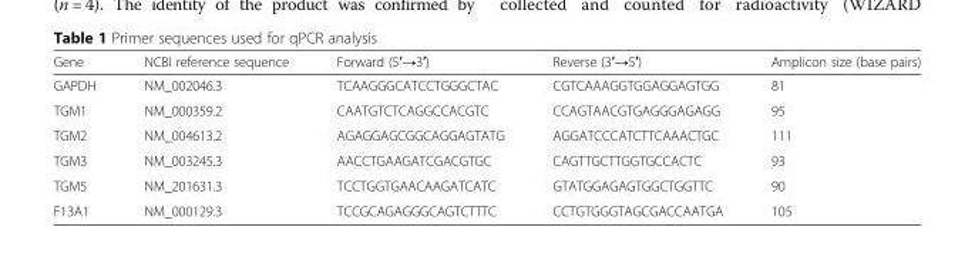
<table><thead><tr><td>Gene</td><td>NCBI reference sequence</td><td>Forward (5′→3′)</td><td>Reverse (3′→5′)</td><td>Amplicon size (base pairs)</td></tr></thead><tbody><tr><td>GAPDH</td><td>NM_002046.3</td><td>TCAAGGGCATCCTGGGCTAC</td><td>CGTCAAAGGTGGAGGAGTGG</td><td>81</td></tr><tr><td>TGM1</td><td>NM_000359.2</td><td>CAATGTCTCAGGCCACGTC</td><td>CCAGTAACGTGAGGGAGAGG</td><td>95</td></tr><tr><td>TGM2</td><td>NM_004613.2</td><td>AGAGGAGCGGCAGGAGTATG</td><td>AGGATCCCATCTTCAAACTGC</td><td>111</td></tr><tr><td>TGM3</td><td>NM_003245.3</td><td>AACCTGAAGATCGACGTGC</td><td>CAGTTGCTTGGTGCCACTC</td><td>93</td></tr><tr><td>TGM5</td><td>NM_201631.3</td><td>TCCTGGTGAACAAGATCATC</td><td>GTATGGAGAGTGGCTGGTTC</td><td>90</td></tr><tr><td>F13A1</td><td>NM_000129.3</td><td>TCCGCAGAGGGCAGTCTTTC</td><td>CCTGTGGGTAGCGACCAATGA</td><td>105</td></tr></tbody></table>